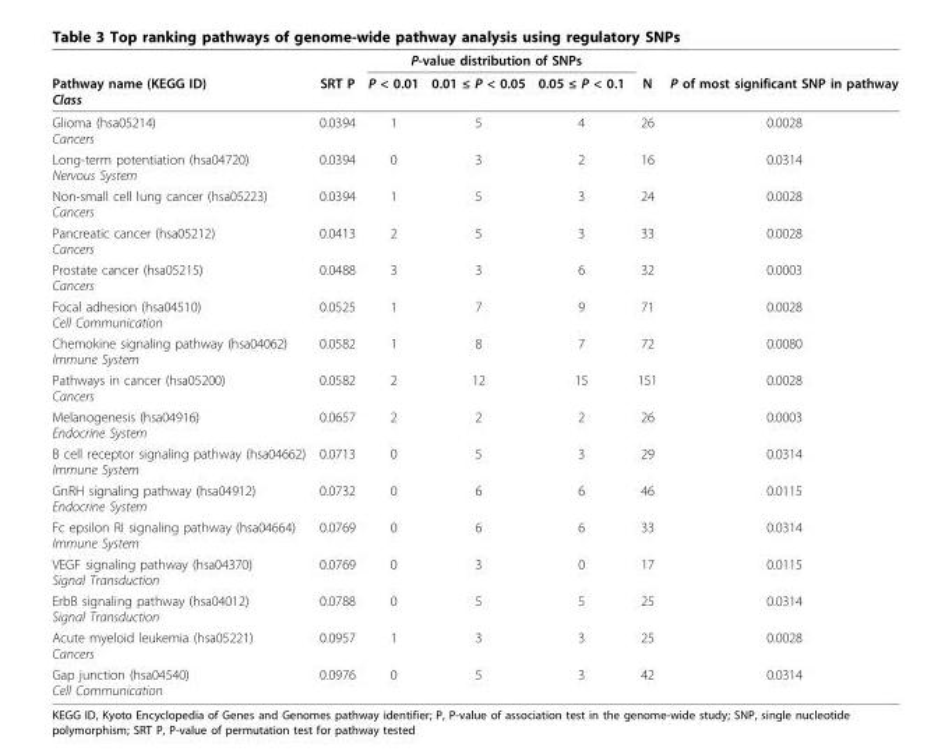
<table><thead><tr><td rowspan="2">Pathway name (KEGG ID) Class</td><td rowspan="2">SRT P</td><td colspan="3">P-value distribution of SNPs</td><td rowspan="2">N</td><td rowspan="2">P of most significant SNP in pathway</td></tr><tr><td>P &lt; 0.01</td><td>0.01 ≤ P &lt; 0.05</td><td>0.05 ≤ P &lt; 0.1</td></tr></thead><tbody><tr><td>Glioma (hsa05214) Cancers</td><td>0.0394</td><td>1</td><td>5</td><td>4</td><td>26</td><td>0.0028</td></tr><tr><td>Long-term potentiation (hsa04720) Nervous System</td><td>0.0394</td><td>0</td><td>3</td><td>2</td><td>16</td><td>0.0314</td></tr><tr><td>Non-small cell lung cancer (hsa05223) Cancers</td><td>0.0394</td><td>1</td><td>5</td><td>3</td><td>24</td><td>0.0028</td></tr><tr><td>Pancreatic cancer (hsa05212) Cancers</td><td>0.0413</td><td>2</td><td>5</td><td>3</td><td>33</td><td>0.0028</td></tr><tr><td>Prostate cancer (hsa05215) Cancers</td><td>0.0488</td><td>3</td><td>3</td><td>6</td><td>32</td><td>0.0003</td></tr><tr><td>Focal adhesion (hsa04510) Cell Communication</td><td>0.0525</td><td>1</td><td>7</td><td>9</td><td>71</td><td>0.0028</td></tr><tr><td>Chemokine signaling pathway (hsa04062) Immune System</td><td>0.0582</td><td>1</td><td>8</td><td>7</td><td>72</td><td>0.0080</td></tr><tr><td>Pathways in cancer (hsa05200) Cancers</td><td>0.0582</td><td>2</td><td>12</td><td>15</td><td>151</td><td>0.0028</td></tr><tr><td>Melanogenesis (hsa04916) Endocrine System</td><td>0.0657</td><td>2</td><td>2</td><td>2</td><td>26</td><td>0.0003</td></tr><tr><td>B cell receptor signaling pathway (hsa04662) Immune System</td><td>0.0713</td><td>0</td><td>5</td><td>3</td><td>29</td><td>0.0314</td></tr><tr><td>GnRH signaling pathway (hsa04912) Endocrine System</td><td>0.0732</td><td>0</td><td>6</td><td>6</td><td>46</td><td>0.0115</td></tr><tr><td>Fc epsilon RI signaling pathway (hsa04664) Immune System</td><td>0.0769</td><td>0</td><td>6</td><td>6</td><td>33</td><td>0.0314</td></tr><tr><td>VEGF signaling pathway (hsa04370) Signal Transduction</td><td>0.0769</td><td>0</td><td>3</td><td>0</td><td>17</td><td>0.0115</td></tr><tr><td>ErbB signaling pathway (hsa04012) Signal Transduction</td><td>0.0788</td><td>0</td><td>5</td><td>5</td><td>25</td><td>0.0314</td></tr><tr><td>Acute myeloid leukemia (hsa05221) Cancers</td><td>0.0957</td><td>1</td><td>3</td><td>3</td><td>25</td><td>0.0028</td></tr><tr><td>Gap junction (hsa04540) Cell Communication</td><td>0.0976</td><td>0</td><td>5</td><td>3</td><td>42</td><td>0.0314</td></tr></tbody></table>